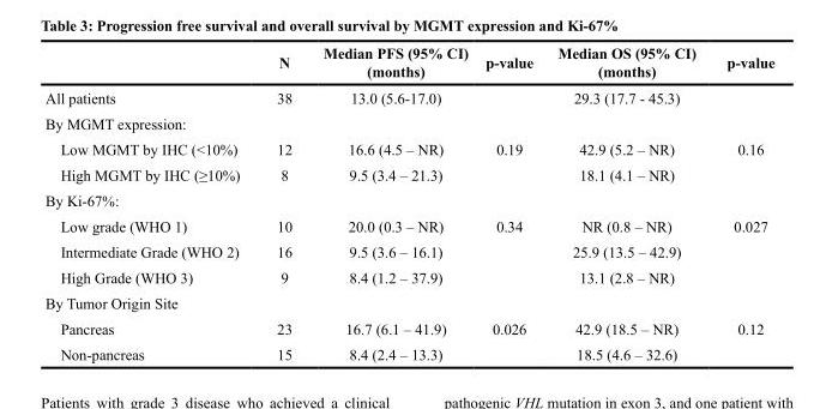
<table><thead><tr><td></td><td>N</td><td>Median PFS (95% CI) (months)</td><td>p-value</td><td>Median OS (95% CI) (months)</td><td>p-value</td></tr></thead><tbody><tr><td>All patients</td><td>38</td><td>13.0 (5.6-17.0)</td><td></td><td>29.3 (17.7 - 45.3)</td><td></td></tr><tr><td colspan="6">By MGMT expression:</td></tr><tr><td>Low MGMT by IHC (&lt;10%)</td><td>12</td><td>16.6 (4.5 – NR)</td><td>0.19</td><td>42.9 (5.2 – NR)</td><td>0.16</td></tr><tr><td>High MGMT by IHC (≥10%)</td><td>8</td><td>9.5 (3.4 – 21.3)</td><td></td><td>18.1 (4.1 – NR)</td><td></td></tr><tr><td colspan="6">By Ki-67%:</td></tr><tr><td>Low grade (WHO 1)</td><td>10</td><td>20.0 (0.3 – NR)</td><td>0.34</td><td>NR (0.8 – NR)</td><td>0.027</td></tr><tr><td>Intermediate Grade (WHO 2)</td><td>16</td><td>9.5 (3.6 – 16.1)</td><td></td><td>25.9 (13.5 – 42.9)</td><td></td></tr><tr><td>High Grade (WHO 3)</td><td>9</td><td>8.4 (1.2 – 37.9)</td><td></td><td>13.1 (2.8 – NR)</td><td></td></tr><tr><td colspan="6">By Tumor Origin Site</td></tr><tr><td>Pancreas</td><td>23</td><td>16.7 (6.1 – 41.9)</td><td>0.026</td><td>42.9 (18.5 – NR)</td><td>0.12</td></tr><tr><td>Non-pancreas</td><td>15</td><td>8.4 (2.4 – 13.3)</td><td></td><td>18.5 (4.6 – 32.6)</td><td></td></tr></tbody></table>